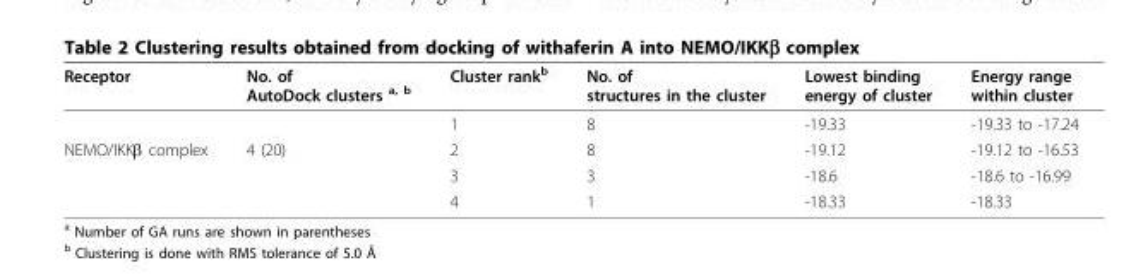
<table><thead><tr><td>Receptor</td><td>No. of AutoDock clusters <sup>a, b</sup></td><td>Cluster rank<sup>b</sup></td><td>No. of structures in the cluster</td><td>Lowest binding energy of cluster</td><td>Energy range within cluster</td></tr></thead><tbody><tr><td></td><td></td><td>1</td><td>8</td><td>-19.33</td><td>-19.33 to -17.24</td></tr><tr><td rowspan="3">NEMO/IKKβ complex</td><td>4 (20)</td><td>2</td><td>8</td><td>-19.12</td><td>-19.12 to -16.53</td></tr><tr><td></td><td>3</td><td>3</td><td>-18.6</td><td>-18.6 to -16.99</td></tr><tr><td></td><td>4</td><td>1</td><td>-18.33</td><td>-18.33</td></tr></tbody></table>